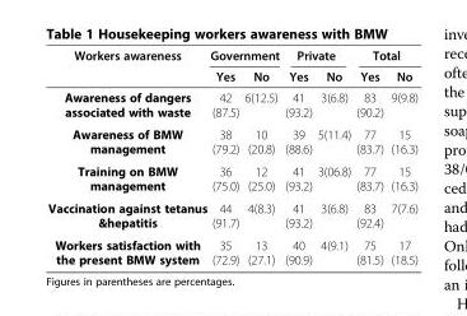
<table><thead><tr><td rowspan="2">Workers awareness</td><td colspan="2">Government</td><td colspan="2">Private</td><td colspan="2">Total</td></tr><tr><td>Yes</td><td>No</td><td>Yes</td><td>No</td><td>Yes</td><td>No</td></tr></thead><tbody><tr><td>Awareness of dangers associated with waste</td><td>42 (87.5)</td><td>6(12.5)</td><td>41 (93.2)</td><td>3(6.8)</td><td>83 (90.2)</td><td>9(9.8)</td></tr><tr><td>Awareness of BMW management</td><td>38 (79.2)</td><td>10 (20.8)</td><td>39 (88.6)</td><td>5(11.4)</td><td>77 (83.7)</td><td>15 (16.3)</td></tr><tr><td>Training on BMW management</td><td>36 (75.0)</td><td>12 (25.0)</td><td>41 (93.2)</td><td>3(06.8)</td><td>77 (83.7)</td><td>15 (16.3)</td></tr><tr><td>Vaccination against tetanus &amp;hepatitis</td><td>44 (91.7)</td><td>4(8.3)</td><td>41 (93.2)</td><td>3(6.8)</td><td>83 (92.4)</td><td>7(7.6)</td></tr><tr><td>Workers satisfaction with the present BMW system</td><td>35 (72.9)</td><td>13 (27.1)</td><td>40 (90.9)</td><td>4(9.1)</td><td>75 (81.5)</td><td>17 (18.5)</td></tr></tbody></table>